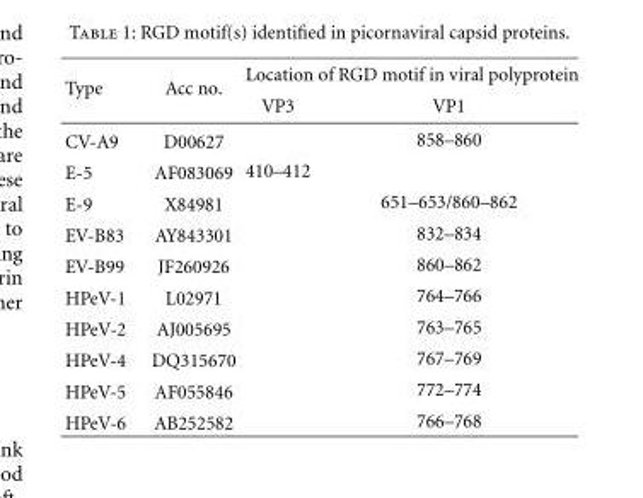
<table><thead><tr><td rowspan="2">Type</td><td rowspan="2">Acc no.</td><td colspan="2">Location of RGD motif in viral polyprotein</td></tr><tr><td>VP3</td><td>VP1</td></tr></thead><tbody><tr><td>CV-A9</td><td>D00627</td><td></td><td>858–860</td></tr><tr><td>E-5</td><td>AF083069</td><td>410–412</td><td></td></tr><tr><td>E-9</td><td>X84981</td><td></td><td>651–653/860–862</td></tr><tr><td>EV-B83</td><td>AY843301</td><td></td><td>832–834</td></tr><tr><td>EV-B99</td><td>JF260926</td><td></td><td>860–862</td></tr><tr><td>HPeV-1</td><td>L02971</td><td></td><td>764–766</td></tr><tr><td>HPeV-2</td><td>AJ005695</td><td></td><td>763–765</td></tr><tr><td>HPeV-4</td><td>DQ315670</td><td></td><td>767–769</td></tr><tr><td>HPeV-5</td><td>AF055846</td><td></td><td>772–774</td></tr><tr><td>HPeV-6</td><td>AB252582</td><td></td><td>766–768</td></tr></tbody></table>